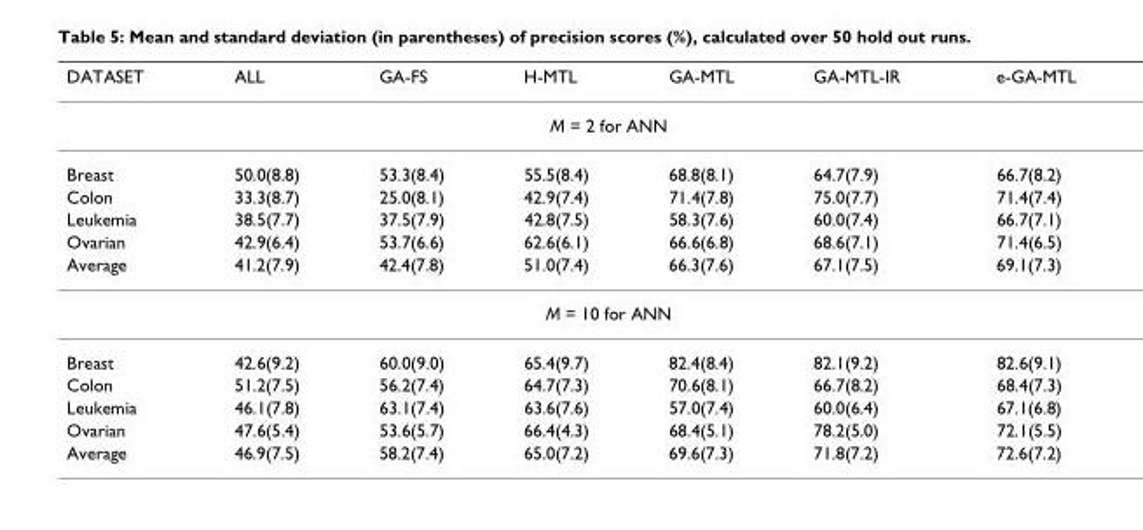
<table><thead><tr><td>DATASET</td><td>ALL</td><td>GA-FS</td><td>H-MTL</td><td>GA-MTL</td><td>GA-MTL-IR</td><td>e-GA-MTL</td></tr></thead><tbody><tr><td colspan="7">M = 2 for ANN</td></tr><tr><td>Breast</td><td>50.0(8.8)</td><td>53.3(8.4)</td><td>55.5(8.4)</td><td>68.8(8.1)</td><td>64.7(7.9)</td><td>66.7(8.2)</td></tr><tr><td>Colon</td><td>33.3(8.7)</td><td>25.0(8.1)</td><td>42.9(7.4)</td><td>71.4(7.8)</td><td>75.0(7.7)</td><td>71.4(7.4)</td></tr><tr><td>Leukemia</td><td>38.5(7.7)</td><td>37.5(7.9)</td><td>42.8(7.5)</td><td>58.3(7.6)</td><td>60.0(7.4)</td><td>66.7(7.1)</td></tr><tr><td>Ovarian</td><td>42.9(6.4)</td><td>53.7(6.6)</td><td>62.6(6.1)</td><td>66.6(6.8)</td><td>68.6(7.1)</td><td>71.4(6.5)</td></tr><tr><td>Average</td><td>41.2(7.9)</td><td>42.4(7.8)</td><td>51.0(7.4)</td><td>66.3(7.6)</td><td>67.1(7.5)</td><td>69.1(7.3)</td></tr><tr><td colspan="7">M = 10 for ANN</td></tr><tr><td>Breast</td><td>42.6(9.2)</td><td>60.0(9.0)</td><td>65.4(9.7)</td><td>82.4(8.4)</td><td>82.1(9.2)</td><td>82.6(9.1)</td></tr><tr><td>Colon</td><td>51.2(7.5)</td><td>56.2(7.4)</td><td>64.7(7.3)</td><td>70.6(8.1)</td><td>66.7(8.2)</td><td>68.4(7.3)</td></tr><tr><td>Leukemia</td><td>46.1(7.8)</td><td>63.1(7.4)</td><td>63.6(7.6)</td><td>57.0(7.4)</td><td>60.0(6.4)</td><td>67.1(6.8)</td></tr><tr><td>Ovarian</td><td>47.6(5.4)</td><td>53.6(5.7)</td><td>66.4(4.3)</td><td>68.4(5.1)</td><td>78.2(5.0)</td><td>72.1(5.5)</td></tr><tr><td>Average</td><td>46.9(7.5)</td><td>58.2(7.4)</td><td>65.0(7.2)</td><td>69.6(7.3)</td><td>71.8(7.2)</td><td>72.6(7.2)</td></tr></tbody></table>